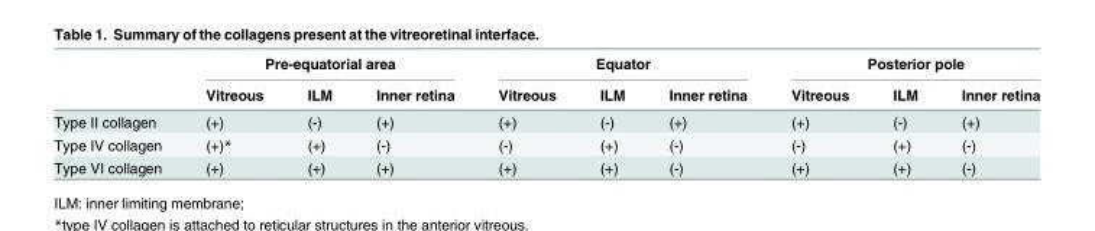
<table><thead><tr><td rowspan="2"></td><td colspan="3">Pre-equatorial area</td><td colspan="3">Equator</td><td colspan="3">Posterior pole</td></tr><tr><td>Vitreous</td><td>ILM</td><td>Inner retina</td><td>Vitreous</td><td>ILM</td><td>Inner retina</td><td>Vitreous</td><td>ILM</td><td>Inner retina</td></tr></thead><tbody><tr><td>Type II collagen</td><td>(+)</td><td>(-)</td><td>(+)</td><td>(+)</td><td>(-)</td><td>(+)</td><td>(+)</td><td>(-)</td><td>(+)</td></tr><tr><td>Type IV collagen</td><td>(+)*</td><td>(+)</td><td>(-)</td><td>(-)</td><td>(+)</td><td>(-)</td><td>(-)</td><td>(+)</td><td>(-)</td></tr><tr><td>Type VI collagen</td><td>(+)</td><td>(+)</td><td>(+)</td><td>(+)</td><td>(+)</td><td>(-)</td><td>(+)</td><td>(+)</td><td>(-)</td></tr></tbody></table>